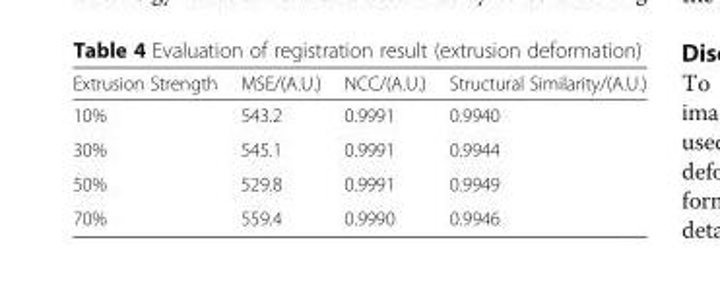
<table><thead><tr><td>Extrusion Strength</td><td>MSE/(A.U.)</td><td>NCC/(A.U.)</td><td>Structural Similarity/(A.U.)</td></tr></thead><tbody><tr><td>10%</td><td>543.2</td><td>0.9991</td><td>0.9940</td></tr><tr><td>30%</td><td>545.1</td><td>0.9991</td><td>0.9944</td></tr><tr><td>50%</td><td>529.8</td><td>0.9991</td><td>0.9949</td></tr><tr><td>70%</td><td>559.4</td><td>0.9990</td><td>0.9946</td></tr></tbody></table>